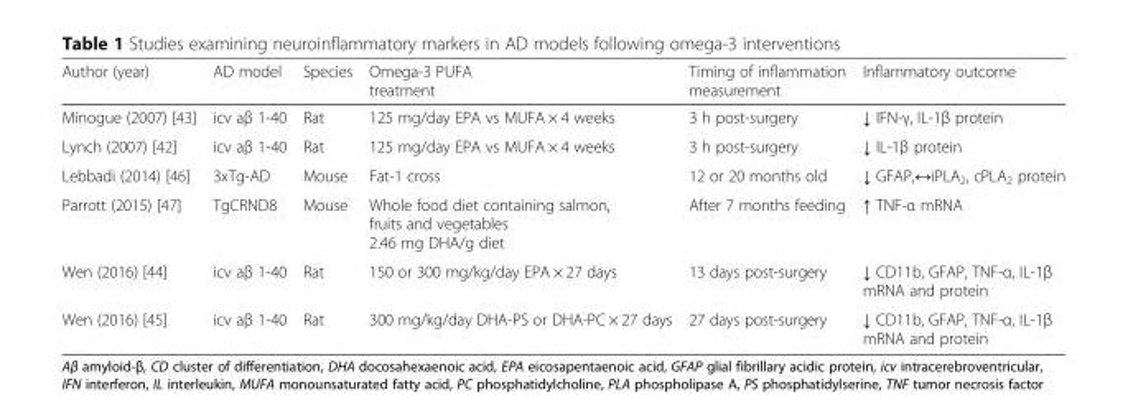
<table><thead><tr><td>Author (year)</td><td>AD model</td><td>Species</td><td>Omega-3 PUFA treatment</td><td>Timing of inflammation measurement</td><td>Inflammatory outcome</td></tr></thead><tbody><tr><td>Minogue (2007) [43]</td><td>icv aβ 1-40</td><td>Rat</td><td>125 mg/day EPA vs MUFA × 4 weeks</td><td>3 h post-surgery</td><td>↓ IFN-γ, IL-1β protein</td></tr><tr><td>Lynch (2007) [42]</td><td>icv aβ 1-40</td><td>Rat</td><td>125 mg/day EPA vs MUFA × 4 weeks</td><td>3 h post-surgery</td><td>↓ IL-1β protein</td></tr><tr><td>Lebbadi (2014) [46]</td><td>3xTg-AD</td><td>Mouse</td><td>Fat-1 cross</td><td>12 or 20 months old</td><td>↓ GFAP,↔iPLA<sub>2</sub>, cPLA<sub>2</sub> protein</td></tr><tr><td>Parrott (2015) [47]</td><td>TgCRND8</td><td>Mouse</td><td>Whole food diet containing salmon, fruits and vegetables 2.46 mg DHA/g diet</td><td>After 7 months feeding</td><td>↑ TNF-α mRNA</td></tr><tr><td>Wen (2016) [44]</td><td>icv aβ 1-40</td><td>Rat</td><td>150 or 300 mg/kg/day EPA × 27 days</td><td>13 days post-surgery</td><td>↓ CD11b, GFAP, TNF-α, IL-1β mRNA and protein</td></tr><tr><td>Wen (2016) [45]</td><td>icv aβ 1-40</td><td>Rat</td><td>300 mg/kg/day DHA-PS or DHA-PC × 27 days</td><td>27 days post-surgery</td><td>↓ CD11b, GFAP, TNF-α, IL-1β mRNA and protein</td></tr></tbody></table>